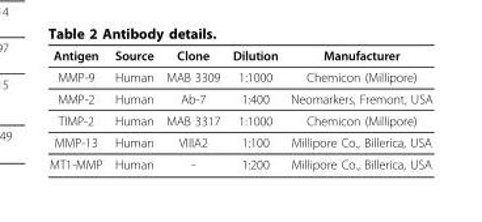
<table><thead><tr><td>Antigen</td><td>Source</td><td>Clone</td><td>Dilution</td><td>Manufacturer</td></tr></thead><tbody><tr><td>MMP-9</td><td>Human</td><td>MAB 3309</td><td>1:1000</td><td>Chemicon (Millipore)</td></tr><tr><td>MMP-2</td><td>Human</td><td>Ab-7</td><td>1:400</td><td>Neomarkers, Fremont, USA</td></tr><tr><td>TIMP-2</td><td>Human</td><td>MAB 3317</td><td>1:1000</td><td>Chemicon (Millipore)</td></tr><tr><td>MMP-13</td><td>Human</td><td>VIIIA2</td><td>1:100</td><td>Millipore Co., Billerica, USA</td></tr><tr><td>MT1-MMP</td><td>Human</td><td>-</td><td>1:200</td><td>Millipore Co., Billerica, USA</td></tr></tbody></table>